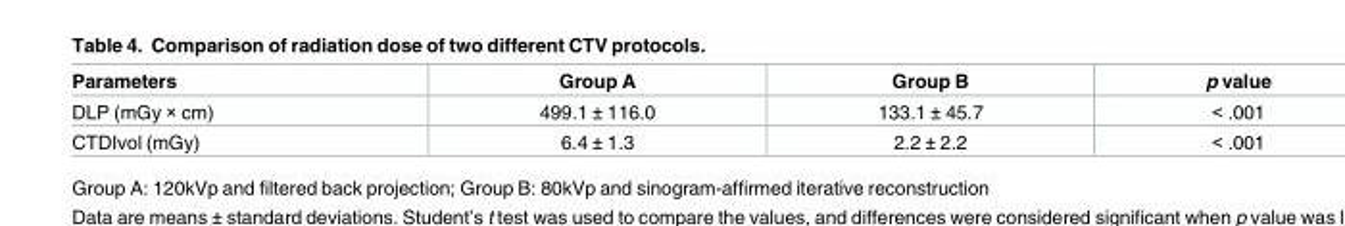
<table><thead><tr><td>Parameters</td><td>Group A</td><td>Group B</td><td>p value</td></tr></thead><tbody><tr><td>DLP (mGy × cm)</td><td>499.1 ± 116.0</td><td>133.1 ± 45.7</td><td>&lt; .001</td></tr><tr><td>CTDIvol (mGy)</td><td>6.4 ± 1.3</td><td>2.2 ± 2.2</td><td>&lt; .001</td></tr></tbody></table>